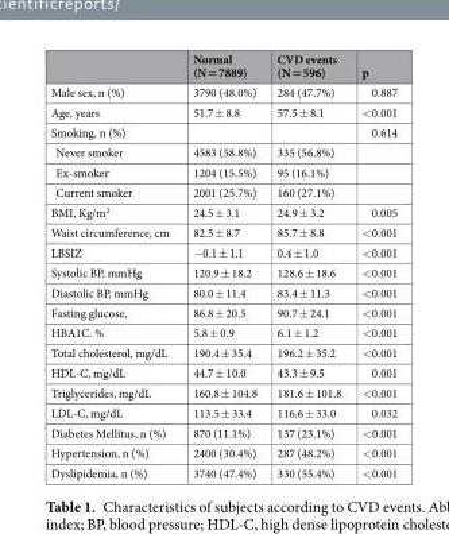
<table><thead><tr><td></td><td>Normal (N = 7889)</td><td>CVD events (N = 596)</td><td>p</td></tr></thead><tbody><tr><td>Male sex, n (%)</td><td>3790 (48.0%)</td><td>284 (47.7%)</td><td>0.887</td></tr><tr><td>Age, years</td><td>51.7 ± 8.8</td><td>57.5 ± 8.1</td><td>&lt;0.001</td></tr><tr><td>Smoking, n (%)</td><td></td><td></td><td>0.614</td></tr><tr><td>Never smoker</td><td>4583 (58.8%)</td><td>335 (56.8%)</td><td></td></tr><tr><td>Ex-smoker</td><td>1204 (15.5%)</td><td>95 (16.1%)</td><td></td></tr><tr><td>Current smoker</td><td>2001 (25.7%)</td><td>160 (27.1%)</td><td></td></tr><tr><td>BMI, Kg/m<sup>2</sup></td><td>24.5 ± 3.1</td><td>24.9 ± 3.2</td><td>0.005</td></tr><tr><td>Waist circumference, cm</td><td>82.5 ± 8.7</td><td>85.7 ± 8.8</td><td>&lt;0.001</td></tr><tr><td>LBSIZ</td><td>−0.1 ± 1.1</td><td>0.4 ± 1.0</td><td>&lt;0.001</td></tr><tr><td>Systolic BP, mmHg</td><td>120.9 ± 18.2</td><td>128.6 ± 18.6</td><td>&lt;0.001</td></tr><tr><td>Diastolic BP, mmHg</td><td>80.0 ± 11.4</td><td>83.4 ± 11.3</td><td>&lt;0.001</td></tr><tr><td>Fasting glucose,</td><td>86.8 ± 20.5</td><td>90.7 ± 24.1</td><td>&lt;0.001</td></tr><tr><td>HBA1C. %</td><td>5.8 ± 0.9</td><td>6.1 ± 1.2</td><td>&lt;0.001</td></tr><tr><td>Total cholesterol, mg/dL</td><td>190.4 ± 35.4</td><td>196.2 ± 35.2</td><td>&lt;0.001</td></tr><tr><td>HDL-C, mg/dL</td><td>44.7 ± 10.0</td><td>43.3 ± 9.5</td><td>0.001</td></tr><tr><td>Triglycerides, mg/dL</td><td>160.8 ± 104.8</td><td>181.6 ± 101.8</td><td>&lt;0.001</td></tr><tr><td>LDL-C, mg/dL</td><td>113.5 ± 33.4</td><td>116.6 ± 33.0</td><td>0.032</td></tr><tr><td>Diabetes Mellitus, n (%)</td><td>870 (11.1%)</td><td>137 (23.1%)</td><td>&lt;0.001</td></tr><tr><td>Hypertension, n (%)</td><td>2400 (30.4%)</td><td>287 (48.2%)</td><td>&lt;0.001</td></tr><tr><td>Dyslipidemia, n (%)</td><td>3740 (47.4%)</td><td>330 (55.4%)</td><td>&lt;0.001</td></tr></tbody></table>